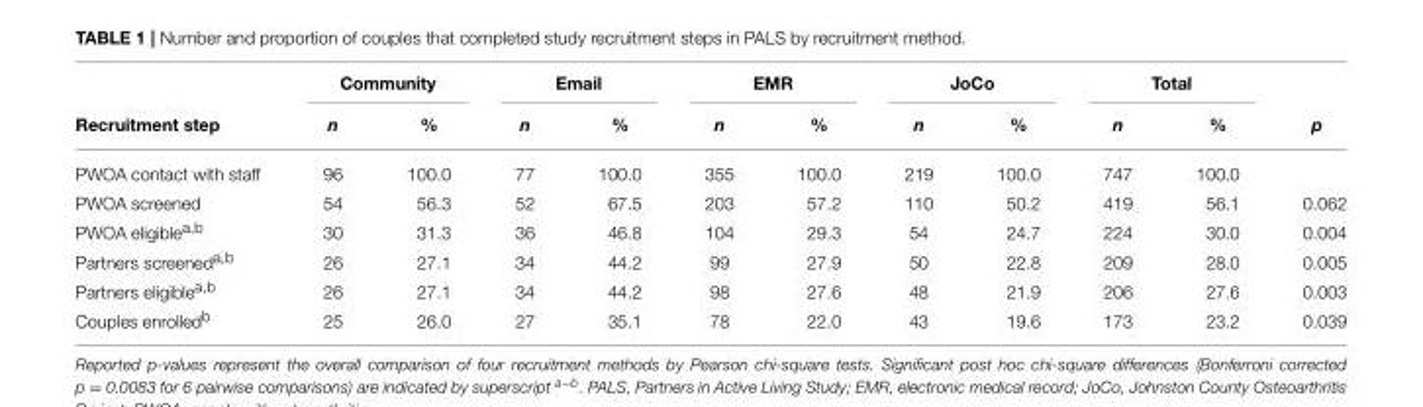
<table><thead><tr><td rowspan="2">Recruitment step</td><td colspan="2">Community</td><td colspan="2">Email</td><td colspan="2">EMR</td><td colspan="2">JoCo</td><td colspan="2">Total</td><td rowspan="2">p</td></tr><tr><td>n</td><td>%</td><td>n</td><td>%</td><td>n</td><td>%</td><td>n</td><td>%</td><td>n</td><td>%</td></tr></thead><tbody><tr><td>PWOA contact with staff</td><td>96</td><td>100.0</td><td>77</td><td>100.0</td><td>355</td><td>100.0</td><td>219</td><td>100.0</td><td>747</td><td>100.0</td><td></td></tr><tr><td>PWOA screened</td><td>54</td><td>56.3</td><td>52</td><td>67.5</td><td>203</td><td>57.2</td><td>110</td><td>50.2</td><td>419</td><td>56.1</td><td>0.062</td></tr><tr><td>PWOA eligible<sup>a,b</sup></td><td>30</td><td>31.3</td><td>36</td><td>46.8</td><td>104</td><td>29.3</td><td>54</td><td>24.7</td><td>224</td><td>30.0</td><td>0.004</td></tr><tr><td>Partners screened<sup>a,b</sup></td><td>26</td><td>27.1</td><td>34</td><td>44.2</td><td>99</td><td>27.9</td><td>50</td><td>22.8</td><td>209</td><td>28.0</td><td>0.005</td></tr><tr><td>Partners eligible<sup>a,b</sup></td><td>26</td><td>27.1</td><td>34</td><td>44.2</td><td>98</td><td>27.6</td><td>48</td><td>21.9</td><td>206</td><td>27.6</td><td>0.003</td></tr><tr><td>Couples enrolledb</td><td>25</td><td>26.0</td><td>27</td><td>35.1</td><td>78</td><td>22.0</td><td>43</td><td>19.6</td><td>173</td><td>23.2</td><td>0.039</td></tr></tbody></table>